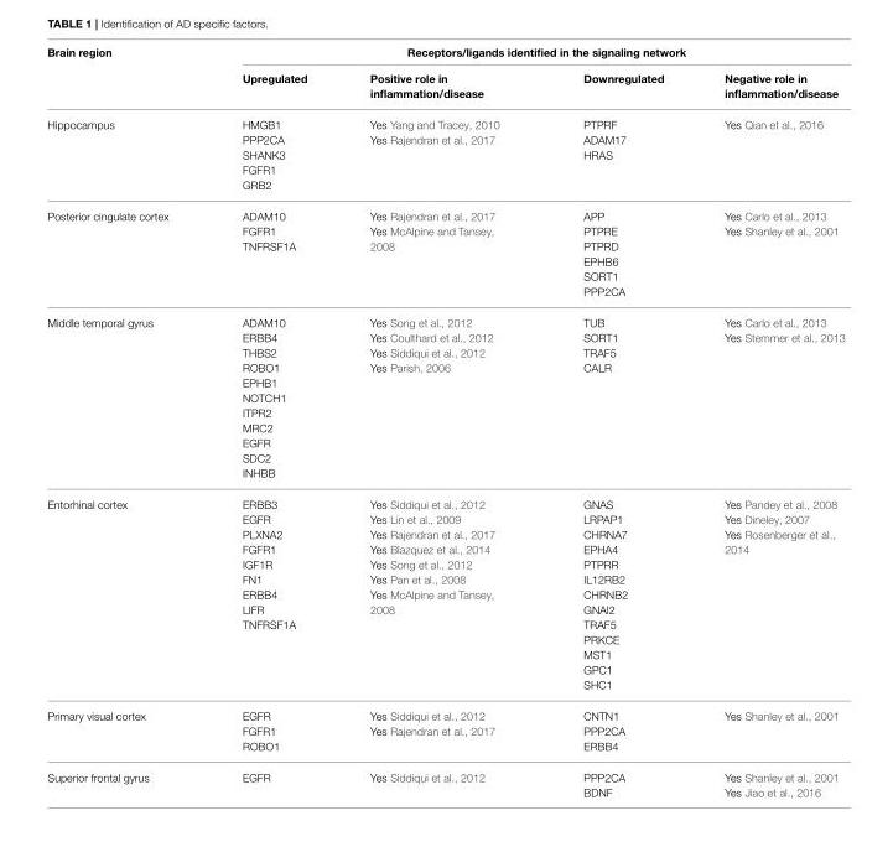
<table><thead><tr><td rowspan="2">Brain region</td><td colspan="4">Receptors/ligands identified in the signaling network</td></tr><tr><td>Upregulated</td><td>Positive role in inflammation/disease</td><td>Downregulated</td><td>Negative role in inflammation/disease</td></tr></thead><tbody><tr><td>Hippocampus</td><td>HMGB1 PPP2CA SHANK3 FGFR1 GRB2</td><td>Yes Yang and Tracey, 2010 Yes Rajendran et al., 2017</td><td>PTPRF ADAM17 HRAS</td><td>Yes Qian et al., 2016</td></tr><tr><td>Posterior cingulate cortex</td><td>ADAM10 FGFR1 TNFRSF1A</td><td>Yes Rajendran et al., 2017 Yes McAlpine and Tansey, 2008</td><td>APP PTPRE PTPRD EPHB6 SORT1 PPP2CA</td><td>Yes Carlo et al., 2013 Yes Shanley et al., 2001</td></tr><tr><td>Middle temporal gyrus</td><td>ADAM10 ERBB4 THBS2 ROBO1 EPHB1 NOTCH1 ITPR2 MRC2 EGFR SDC2 INHBB</td><td>Yes Song et al., 2012 Yes Coulthard et al., 2012 Yes Siddiqui et al., 2012 Yes Parish, 2006</td><td>TUB SORT1 TRAF5 CALR</td><td>Yes Carlo et al., 2013 Yes Stemmer et al., 2013</td></tr><tr><td>Entorhinal cortex</td><td>ERBB3 EGFR PLXNA2 FGFR1 IGF1R FN1 ERBB4 LIFR TNFRSF1A</td><td>Yes Siddiqui et al., 2012 Yes Lin et al., 2009 Yes Rajendran et al., 2017 Yes Blazquez et al., 2014 Yes Song et al., 2012 Yes Pan et al., 2008 Yes McAlpine and Tansey, 2008</td><td>GNAS LRPAP1 CHRNA7 EPHA4 PTPRR IL12RB2 CHRNB2 GNAI2 TRAF5 PRKCE MST1 GPC1 SHC1</td><td>Yes Pandey et al., 2008 Yes Dineley, 2007 Yes Rosenberger et al., 2014</td></tr><tr><td>Primary visual cortex</td><td>EGFR FGFR1 ROBO1</td><td>Yes Siddiqui et al., 2012 Yes Rajendran et al., 2017</td><td>CNTN1 PPP2CA ERBB4</td><td>Yes Shanley et al., 2001</td></tr><tr><td>Superior frontal gyrus</td><td>EGFR</td><td>Yes Siddiqui et al., 2012</td><td>PPP2CA BDNF</td><td>Yes Shanley et al., 2001 Yes Jiao et al., 2016</td></tr></tbody></table>